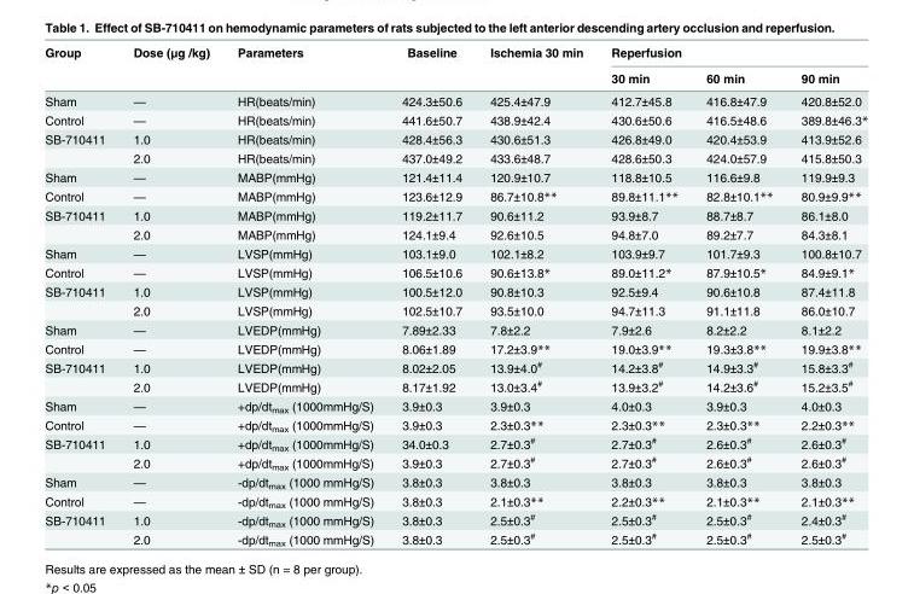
<table><thead><tr><td rowspan="2">Group</td><td rowspan="2">Dose (μg /kg)</td><td rowspan="2">Parameters</td><td rowspan="2">Baseline</td><td rowspan="2">Ischemia 30 min</td><td colspan="3">Reperfusion</td></tr><tr><td>30 min</td><td>60 min</td><td>90 min</td></tr></thead><tbody><tr><td>Sham</td><td>—</td><td>HR(beats/min)</td><td>424.3±50.6</td><td>425.4±47.9</td><td>412.7±45.8</td><td>416.8±47.9</td><td>420.8±52.0</td></tr><tr><td>Control</td><td>—</td><td>HR(beats/min)</td><td>441.6±50.7</td><td>438.9±42.4</td><td>430.6±50.6</td><td>416.5±48.6</td><td>389.8±46.3*</td></tr><tr><td rowspan="2">SB-710411</td><td>1.0</td><td>HR(beats/min)</td><td>428.4±56.3</td><td>430.6±51.3</td><td>426.8±49.0</td><td>420.4±53.9</td><td>413.9±52.6</td></tr><tr><td>2.0</td><td>HR(beats/min)</td><td>437.0±49.2</td><td>433.6±48.7</td><td>428.6±50.3</td><td>424.0±57.9</td><td>415.8±50.3</td></tr><tr><td>Sham</td><td>—</td><td>MABP(mmHg)</td><td>121.4±11.4</td><td>120.9±10.7</td><td>118.8±10.5</td><td>116.6±9.8</td><td>119.9±9.3</td></tr><tr><td>Control</td><td>—</td><td>MABP(mmHg)</td><td>123.6±12.9</td><td>86.7±10.8**</td><td>89.8±11.1**</td><td>82.8±10.1**</td><td>80.9±9.9**</td></tr><tr><td rowspan="2">SB-710411</td><td>1.0</td><td>MABP(mmHg)</td><td>119.2±11.7</td><td>90.6±11.2</td><td>93.9±8.7</td><td>88.7±8.7</td><td>86.1±8.0</td></tr><tr><td>2.0</td><td>MABP(mmHg)</td><td>124.1±9.4</td><td>92.6±10.5</td><td>94.8±7.0</td><td>89.2±7.7</td><td>84.3±8.1</td></tr><tr><td>Sham</td><td>—</td><td>LVSP(mmHg)</td><td>103.1±9.0</td><td>102.1±8.2</td><td>103.9±9.7</td><td>101.7±9.3</td><td>100.8±10.7</td></tr><tr><td>Control</td><td>—</td><td>LVSP(mmHg)</td><td>106.5±10.6</td><td>90.6±13.8*</td><td>89.0±11.2*</td><td>87.9±10.5*</td><td>84.9±9.1*</td></tr><tr><td rowspan="2">SB-710411</td><td>1.0</td><td>LVSP(mmHg)</td><td>100.5±12.0</td><td>90.8±10.3</td><td>92.5±9.4</td><td>90.6±10.8</td><td>87.4±11.8</td></tr><tr><td>2.0</td><td>LVSP(mmHg)</td><td>102.5±10.7</td><td>93.5±10.0</td><td>94.7±11.3</td><td>91.1±11.8</td><td>86.0±10.7</td></tr><tr><td>Sham</td><td>—</td><td>LVEDP(mmHg)</td><td>7.89±2.33</td><td>7.8±2.2</td><td>7.9±2.6</td><td>8.2±2.2</td><td>8.1±2.2</td></tr><tr><td>Control</td><td>—</td><td>LVEDP(mmHg)</td><td>8.06±1.89</td><td>17.2±3.9**</td><td>19.0±3.9**</td><td>19.3±3.8**</td><td>19.9±3.8**</td></tr><tr><td rowspan="2">SB-710411</td><td>1.0</td><td>LVEDP(mmHg)</td><td>8.02±2.05</td><td>13.9±4.0<sup>#</sup></td><td>14.2±3.8<sup>#</sup></td><td>14.9±3.3<sup>#</sup></td><td>15.8±3.3<sup>#</sup></td></tr><tr><td>2.0</td><td>LVEDP(mmHg)</td><td>8.17±1.92</td><td>13.0±3.4<sup>#</sup></td><td>13.9±3.2<sup>#</sup></td><td>14.2±3.6<sup>#</sup></td><td>15.2±3.5<sup>#</sup></td></tr><tr><td>Sham</td><td>—</td><td>+dp/dt<sub>max</sub> (1000mmHg/S)</td><td>3.9±0.3</td><td>3.9±0.3</td><td>4.0±0.3</td><td>3.9±0.3</td><td>4.0±0.3</td></tr><tr><td>Control</td><td>—</td><td>+dp/dt<sub>max</sub> (1000mmHg/S)</td><td>3.9±0.3</td><td>2.3±0.3**</td><td>2.3±0.3**</td><td>2.3±0.3**</td><td>2.2±0.3**</td></tr><tr><td rowspan="2">SB-710411</td><td>1.0</td><td>+dp/dt<sub>max</sub> (1000mmHg/S)</td><td>34.0±0.3</td><td>2.7±0.3<sup>#</sup></td><td>2.7±0.3<sup>#</sup></td><td>2.6±0.3<sup>#</sup></td><td>2.6±0.3<sup>#</sup></td></tr><tr><td>2.0</td><td>+dp/dt<sub>max</sub> (1000mmHg/S)</td><td>3.9±0.3</td><td>2.7±0.3<sup>#</sup></td><td>2.7±0.3<sup>#</sup></td><td>2.6±0.3<sup>#</sup></td><td>2.6±0.3<sup>#</sup></td></tr><tr><td>Sham</td><td>—</td><td>-dp/dt<sub>max</sub> (1000 mmHg/S)</td><td>3.8±0.3</td><td>3.8±0.3</td><td>3.8±0.3</td><td>3.8±0.3</td><td>3.8±0.3</td></tr><tr><td>Control</td><td>—</td><td>-dp/dt<sub>max</sub> (1000 mmHg/S)</td><td>3.8±0.3</td><td>2.1±0.3**</td><td>2.2±0.3**</td><td>2.1±0.3**</td><td>2.1±0.3**</td></tr><tr><td rowspan="2">SB-710411</td><td>1.0</td><td>-dp/dt<sub>max</sub> (1000 mmHg/S)</td><td>3.8±0.3</td><td>2.5±0.3<sup>#</sup></td><td>2.5±0.3<sup>#</sup></td><td>2.5±0.3<sup>#</sup></td><td>2.4±0.3<sup>#</sup></td></tr><tr><td>2.0</td><td>-dp/dt<sub>max</sub> (1000 mmHg/S)</td><td>3.8±0.3</td><td>2.5±0.3<sup>#</sup></td><td>2.5±0.3<sup>#</sup></td><td>2.5±0.3<sup>#</sup></td><td>2.5±0.3<sup>#</sup></td></tr></tbody></table>